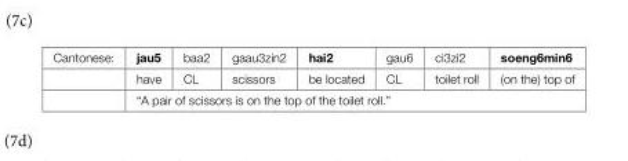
<table><tbody><tr><td rowspan="3">Cantonese:</td><td>jau5</td><td>baa2</td><td>gaau3zin2</td><td>hai2</td><td>gau6</td><td>ci3zi2</td><td>soeng6min6</td></tr><tr><td>have</td><td>CL</td><td>scissors</td><td>be located</td><td>CL</td><td>toilet roll</td><td>(on the) top of</td></tr><tr><td colspan="7">“A pair of scissors is on the top of the toilet roll.”</td></tr></tbody></table>